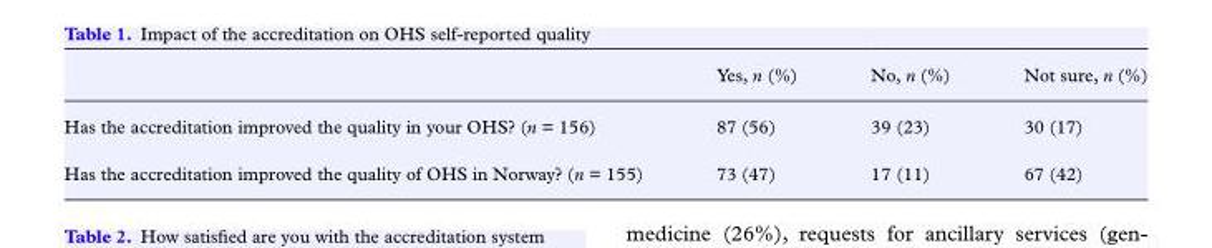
<table><thead><tr><td></td><td>Yes, n (%)</td><td>No, n (%)</td><td>Not sure, n (%)</td></tr></thead><tbody><tr><td>Has the accreditation improved the quality in your OHS? (n = 156)</td><td>87 (56)</td><td>39 (23)</td><td>30 (17)</td></tr><tr><td>Has the accreditation improved the quality of OHS in Norway? (n = 155)</td><td>73 (47)</td><td>17 (11)</td><td>67 (42)</td></tr></tbody></table>